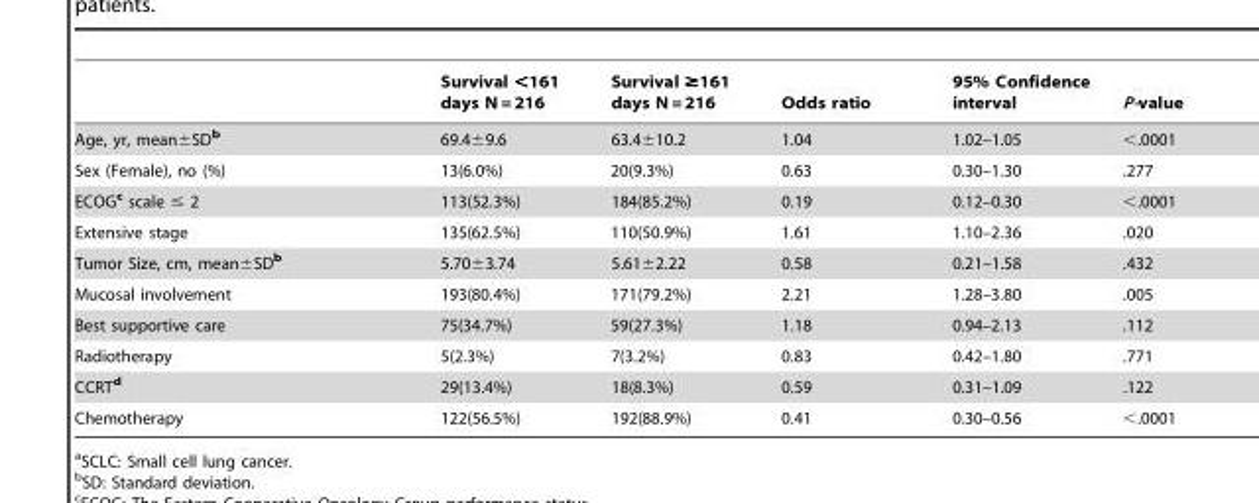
<table><thead><tr><td></td><td>Survival &lt;161 days N = 216</td><td>Survival ≥161 days N = 216</td><td>Odds ratio</td><td>95% Confidence interval</td><td>P-value</td></tr></thead><tbody><tr><td>Age, yr, mean±SD<sup>b</sup></td><td>69.4±9.6</td><td>63.4±10.2</td><td>1.04</td><td>1.02–1.05</td><td>&lt;.0001</td></tr><tr><td>Sex (Female), no (%)</td><td>13(6.0%)</td><td>20(9.3%)</td><td>0.63</td><td>0.30–1.30</td><td>.277</td></tr><tr><td>ECOG<sup>c</sup> scale ≤ 2</td><td>113(52.3%)</td><td>184(85.2%)</td><td>0.19</td><td>0.12–0.30</td><td>&lt;.0001</td></tr><tr><td>Extensive stage</td><td>135(62.5%)</td><td>110(50.9%)</td><td>1.61</td><td>1.10–2.36</td><td>.020</td></tr><tr><td>Tumor Size, cm, mean±SD<sup>b</sup></td><td>5.70±3.74</td><td>5.61±2.22</td><td>0.58</td><td>0.21–1.58</td><td>.432</td></tr><tr><td>Mucosal involvement</td><td>193(80.4%)</td><td>171(79.2%)</td><td>2.21</td><td>1.28–3.80</td><td>.005</td></tr><tr><td>Best supportive care</td><td>75(34.7%)</td><td>59(27.3%)</td><td>1.18</td><td>0.94–2.13</td><td>.112</td></tr><tr><td>Radiotherapy</td><td>5(2.3%)</td><td>7(3.2%)</td><td>0.83</td><td>0.42–1.80</td><td>.771</td></tr><tr><td>CCRT<sup>d</sup></td><td>29(13.4%)</td><td>18(8.3%)</td><td>0.59</td><td>0.31–1.09</td><td>.122</td></tr><tr><td>Chemotherapy</td><td>122(56.5%)</td><td>192(88.9%)</td><td>0.41</td><td>0.30–0.56</td><td>&lt;.0001</td></tr></tbody></table>